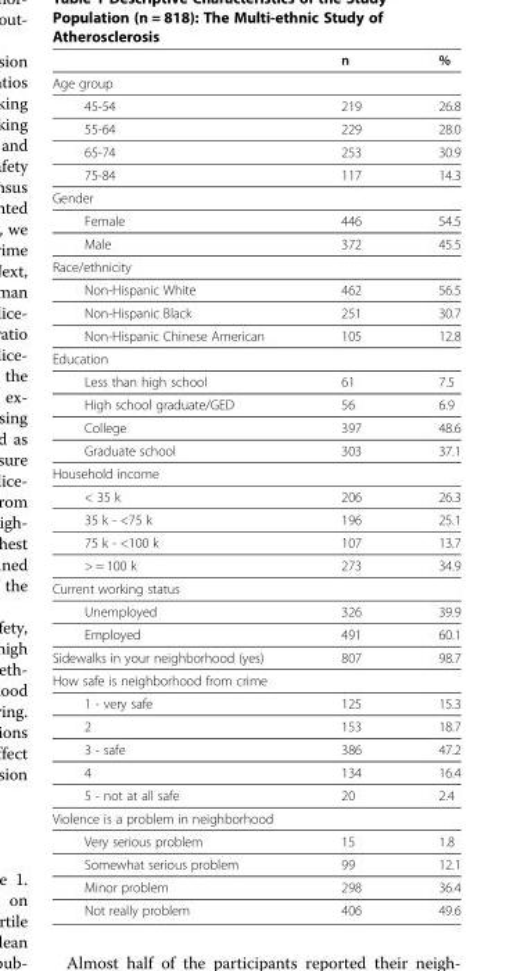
<table><thead><tr><td></td><td>n</td><td>%</td></tr></thead><tbody><tr><td colspan="3">Age group</td></tr><tr><td>45-54</td><td>219</td><td>26.8</td></tr><tr><td>55-64</td><td>229</td><td>28.0</td></tr><tr><td>65-74</td><td>253</td><td>30.9</td></tr><tr><td>75-84</td><td>117</td><td>14.3</td></tr><tr><td colspan="3">Gender</td></tr><tr><td>Female</td><td>446</td><td>54.5</td></tr><tr><td>Male</td><td>372</td><td>45.5</td></tr><tr><td colspan="3">Race/ethnicity</td></tr><tr><td>Non-Hispanic White</td><td>462</td><td>56.5</td></tr><tr><td>Non-Hispanic Black</td><td>251</td><td>30.7</td></tr><tr><td>Non-Hispanic Chinese American</td><td>105</td><td>12.8</td></tr><tr><td colspan="3">Education</td></tr><tr><td>Less than high school</td><td>61</td><td>7.5</td></tr><tr><td>High school graduate/GED</td><td>56</td><td>6.9</td></tr><tr><td>College</td><td>397</td><td>48.6</td></tr><tr><td>Graduate school</td><td>303</td><td>37.1</td></tr><tr><td colspan="3">Household income</td></tr><tr><td>&lt; 35 k</td><td>206</td><td>26.3</td></tr><tr><td>35 k - &lt;75 k</td><td>196</td><td>25.1</td></tr><tr><td>75 k - &lt;100 k</td><td>107</td><td>13.7</td></tr><tr><td>&gt; = 100 k</td><td>273</td><td>34.9</td></tr><tr><td colspan="3">Current working status</td></tr><tr><td>Unemployed</td><td>326</td><td>39.9</td></tr><tr><td>Employed</td><td>491</td><td>60.1</td></tr><tr><td>Sidewalks in your neighborhood (yes)</td><td>807</td><td>98.7</td></tr><tr><td colspan="3">How safe is neighborhood from crime</td></tr><tr><td>1 - very safe</td><td>125</td><td>15.3</td></tr><tr><td>2</td><td>153</td><td>18.7</td></tr><tr><td>3 - safe</td><td>386</td><td>47.2</td></tr><tr><td>4</td><td>134</td><td>16.4</td></tr><tr><td>5 - not at all safe</td><td>20</td><td>2.4</td></tr><tr><td colspan="3">Violence is a problem in neighborhood</td></tr><tr><td>Very serious problem</td><td>15</td><td>1.8</td></tr><tr><td>Somewhat serious problem</td><td>99</td><td>12.1</td></tr><tr><td>Minor problem</td><td>298</td><td>36.4</td></tr><tr><td>Not really problem</td><td>406</td><td>49.6</td></tr></tbody></table>